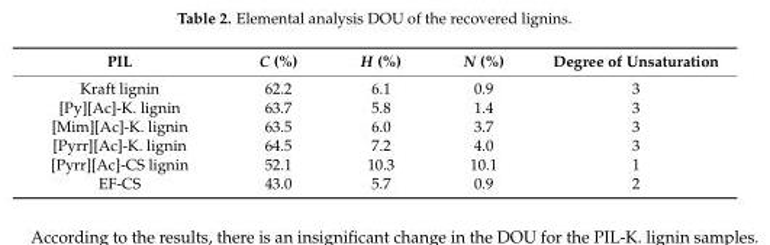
<table><thead><tr><td>PIL</td><td>C (%)</td><td>H (%)</td><td>N (%)</td><td>Degree of Unsaturation</td></tr></thead><tbody><tr><td>Kraft lignin</td><td>62.2</td><td>6.1</td><td>0.9</td><td>3</td></tr><tr><td>[Py][Ac]-K. lignin</td><td>63.7</td><td>5.8</td><td>1.4</td><td>3</td></tr><tr><td>[Mim][Ac]-K. lignin</td><td>63.5</td><td>6.0</td><td>3.7</td><td>3</td></tr><tr><td>[Pyrr][Ac]-K. lignin</td><td>64.5</td><td>7.2</td><td>4.0</td><td>3</td></tr><tr><td>[Pyrr][Ac]-CS lignin</td><td>52.1</td><td>10.3</td><td>10.1</td><td>1</td></tr><tr><td>EF-CS</td><td>43.0</td><td>5.7</td><td>0.9</td><td>2</td></tr></tbody></table>